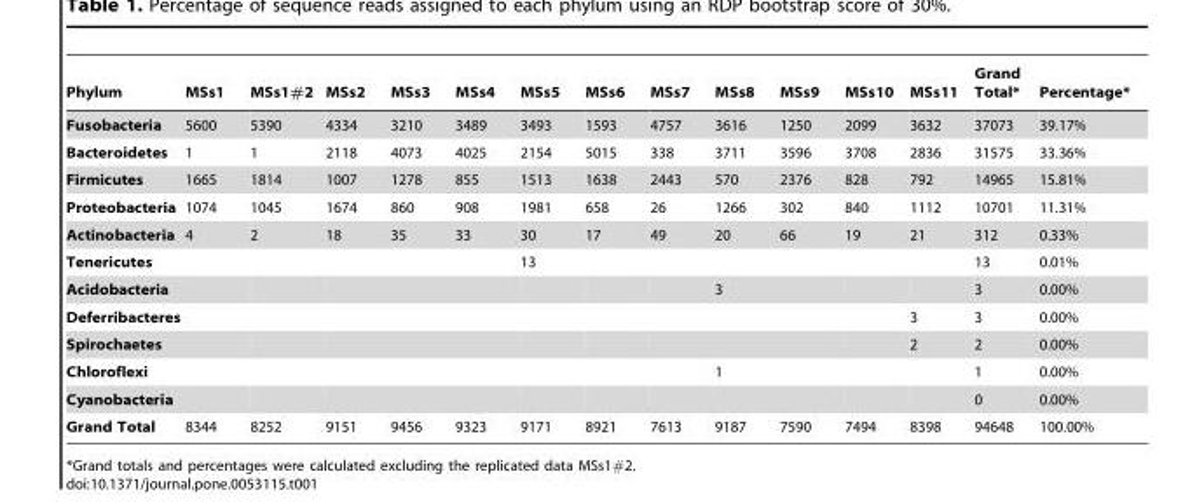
<table><thead><tr><td>Phylum</td><td>MSs1</td><td>MSs1#2</td><td>MSs2</td><td>MSs3</td><td>MSs4</td><td>MSs5</td><td>MSs6</td><td>MSs7</td><td>MSs8</td><td>MSs9</td><td>MSs10</td><td>MSs11</td><td>Grand Total*</td><td>Percentage*</td></tr></thead><tbody><tr><td>Fusobacteria</td><td>5600</td><td>5390</td><td>4334</td><td>3210</td><td>3489</td><td>3493</td><td>1593</td><td>4757</td><td>3616</td><td>1250</td><td>2099</td><td>3632</td><td>37073</td><td>39.17%</td></tr><tr><td>Bacteroidetes</td><td>1</td><td>1</td><td>2118</td><td>4073</td><td>4025</td><td>2154</td><td>5015</td><td>338</td><td>3711</td><td>3596</td><td>3708</td><td>2836</td><td>31575</td><td>33.36%</td></tr><tr><td>Firmicutes</td><td>1665</td><td>1814</td><td>1007</td><td>1278</td><td>855</td><td>1513</td><td>1638</td><td>2443</td><td>570</td><td>2376</td><td>828</td><td>792</td><td>14965</td><td>15.81%</td></tr><tr><td>Proteobacteria</td><td>1074</td><td>1045</td><td>1674</td><td>860</td><td>908</td><td>1981</td><td>658</td><td>26</td><td>1266</td><td>302</td><td>840</td><td>1112</td><td>10701</td><td>11.31%</td></tr><tr><td>Actinobacteria</td><td>4</td><td>2</td><td>18</td><td>35</td><td>33</td><td>30</td><td>17</td><td>49</td><td>20</td><td>66</td><td>19</td><td>21</td><td>312</td><td>0.33%</td></tr><tr><td>Tenericutes</td><td></td><td></td><td></td><td></td><td></td><td>13</td><td></td><td></td><td></td><td></td><td></td><td></td><td>13</td><td>0.01%</td></tr><tr><td>Acidobacteria</td><td></td><td></td><td></td><td></td><td></td><td></td><td></td><td></td><td>3</td><td></td><td></td><td></td><td>3</td><td>0.00%</td></tr><tr><td>Deferribacteres</td><td></td><td></td><td></td><td></td><td></td><td></td><td></td><td></td><td></td><td></td><td></td><td>3</td><td>3</td><td>0.00%</td></tr><tr><td>Spirochaetes</td><td></td><td></td><td></td><td></td><td></td><td></td><td></td><td></td><td></td><td></td><td></td><td>2</td><td>2</td><td>0.00%</td></tr><tr><td>Chloroflexi</td><td></td><td></td><td></td><td></td><td></td><td></td><td></td><td></td><td>1</td><td></td><td></td><td></td><td>1</td><td>0.00%</td></tr><tr><td>Cyanobacteria</td><td></td><td></td><td></td><td></td><td></td><td></td><td></td><td></td><td></td><td></td><td></td><td></td><td>0</td><td>0.00%</td></tr><tr><td>Grand Total</td><td>8344</td><td>8252</td><td>9151</td><td>9456</td><td>9323</td><td>9171</td><td>8921</td><td>7613</td><td>9187</td><td>7590</td><td>7494</td><td>8398</td><td>94648</td><td>100.00%</td></tr></tbody></table>